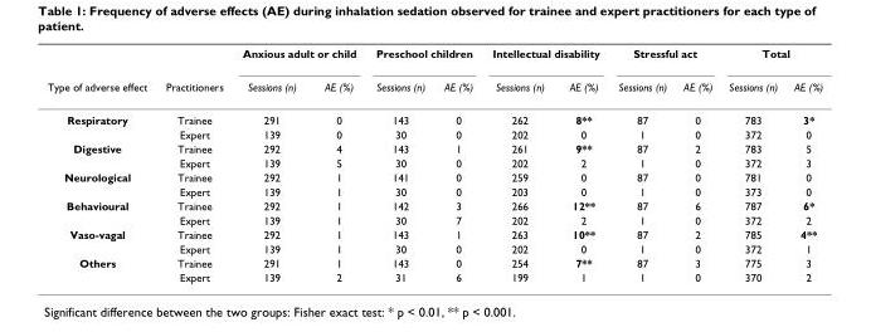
<table><thead><tr><td rowspan="2">Type of adverse effect</td><td rowspan="2">Practitioners</td><td colspan="2">Anxious adult or child</td><td colspan="2">Preschool children</td><td colspan="2">Intellectual disability</td><td colspan="2">Stressful act</td><td colspan="2">Total</td></tr><tr><td>Sessions (n)</td><td>AE (%)</td><td>Sessions (n)</td><td>AE (%)</td><td>Sessions (n)</td><td>AE (%)</td><td>Sessions (n)</td><td>AE (%)</td><td>Sessions (n)</td><td>AE (%)</td></tr></thead><tbody><tr><td rowspan="2">Respiratory</td><td>Trainee</td><td>291</td><td>0</td><td>143</td><td>0</td><td>262</td><td>8**</td><td>87</td><td>0</td><td>783</td><td>3*</td></tr><tr><td>Expert</td><td>139</td><td>0</td><td>30</td><td>0</td><td>202</td><td>0</td><td>1</td><td>0</td><td>372</td><td>0</td></tr><tr><td rowspan="2">Digestive</td><td>Trainee</td><td>292</td><td>4</td><td>143</td><td>1</td><td>261</td><td>9**</td><td>87</td><td>2</td><td>783</td><td>5</td></tr><tr><td>Expert</td><td>139</td><td>5</td><td>30</td><td>0</td><td>202</td><td>2</td><td>1</td><td>0</td><td>372</td><td>3</td></tr><tr><td rowspan="2">Neurological</td><td>Trainee</td><td>292</td><td>1</td><td>141</td><td>0</td><td>259</td><td>0</td><td>87</td><td>0</td><td>781</td><td>0</td></tr><tr><td>Expert</td><td>139</td><td>1</td><td>30</td><td>0</td><td>203</td><td>0</td><td>1</td><td>0</td><td>373</td><td>0</td></tr><tr><td rowspan="2">Behavioural</td><td>Trainee</td><td>292</td><td>1</td><td>142</td><td>3</td><td>266</td><td>12**</td><td>87</td><td>6</td><td>787</td><td>6*</td></tr><tr><td>Expert</td><td>139</td><td>1</td><td>30</td><td>7</td><td>202</td><td>2</td><td>1</td><td>0</td><td>372</td><td>2</td></tr><tr><td rowspan="2">Vaso-vagal</td><td>Trainee</td><td>292</td><td>1</td><td>143</td><td>1</td><td>263</td><td>10**</td><td>87</td><td>2</td><td>785</td><td>4**</td></tr><tr><td>Expert</td><td>139</td><td>1</td><td>30</td><td>0</td><td>202</td><td>0</td><td>1</td><td>0</td><td>372</td><td>1</td></tr><tr><td rowspan="2">Others</td><td>Trainee</td><td>291</td><td>1</td><td>143</td><td>0</td><td>254</td><td>7**</td><td>87</td><td>3</td><td>775</td><td>3</td></tr><tr><td>Expert</td><td>139</td><td>2</td><td>31</td><td>6</td><td>199</td><td>1</td><td>1</td><td>0</td><td>370</td><td>2</td></tr></tbody></table>